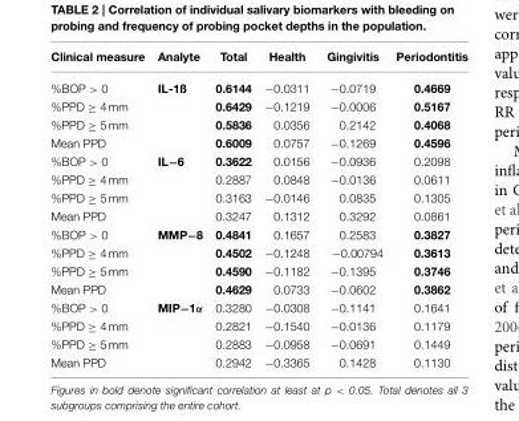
<table><thead><tr><td>Clinical measure</td><td>Analyte</td><td>Total</td><td>Health</td><td>Gingivitis</td><td>Periodontitis</td></tr></thead><tbody><tr><td>%BOP &gt; 0</td><td>IL-1ß</td><td>0.6144</td><td>−0.0311</td><td>−0.0719</td><td>0.4669</td></tr><tr><td>%PPD ≥ 4 mm</td><td></td><td>0.6429</td><td>−0.1219</td><td>−0.0006</td><td>0.5167</td></tr><tr><td>%PPD ≥ 5 mm</td><td></td><td>0.5836</td><td>0.0356</td><td>0.2142</td><td>0.4068</td></tr><tr><td>Mean PPD</td><td></td><td>0.6009</td><td>0.0757</td><td>−0.1269</td><td>0.4596</td></tr><tr><td>%BOP &gt; 0</td><td>IL−6</td><td>0.3622</td><td>0.0156</td><td>−0.0936</td><td>0.2098</td></tr><tr><td>%PPD ≥ 4 mm</td><td></td><td>0.2887</td><td>0.0848</td><td>−0.0136</td><td>0.0611</td></tr><tr><td>%PPD ≥ 5 mm</td><td></td><td>0.3163</td><td>−0.0146</td><td>0.0835</td><td>0.1305</td></tr><tr><td>Mean PPD</td><td></td><td>0.3247</td><td>0.1312</td><td>0.3292</td><td>0.0861</td></tr><tr><td>%BOP &gt; 0</td><td>MMP−8</td><td>0.4841</td><td>0.1657</td><td>0.2583</td><td>0.3827</td></tr><tr><td>%PPD ≥ 4 mm</td><td></td><td>0.4502</td><td>−0.1248</td><td>−0.00794</td><td>0.3613</td></tr><tr><td>%PPD ≥ 5 mm</td><td></td><td>0.4590</td><td>−0.1182</td><td>−0.1395</td><td>0.3746</td></tr><tr><td>Mean PPD</td><td></td><td>0.4629</td><td>0.0733</td><td>−0.0602</td><td>0.3862</td></tr><tr><td>%BOP &gt; 0</td><td>MIP−1α</td><td>0.3280</td><td>−0.0308</td><td>−0.1141</td><td>0.1641</td></tr><tr><td>%PPD ≥ 4 mm</td><td></td><td>0.2821</td><td>−0.1540</td><td>−0.0136</td><td>0.1179</td></tr><tr><td>%PPD ≥ 5 mm</td><td></td><td>0.2883</td><td>−0.0958</td><td>−0.0691</td><td>0.1449</td></tr><tr><td>Mean PPD</td><td></td><td>0.2942</td><td>−0.3365</td><td>0.1428</td><td>0.1130</td></tr></tbody></table>